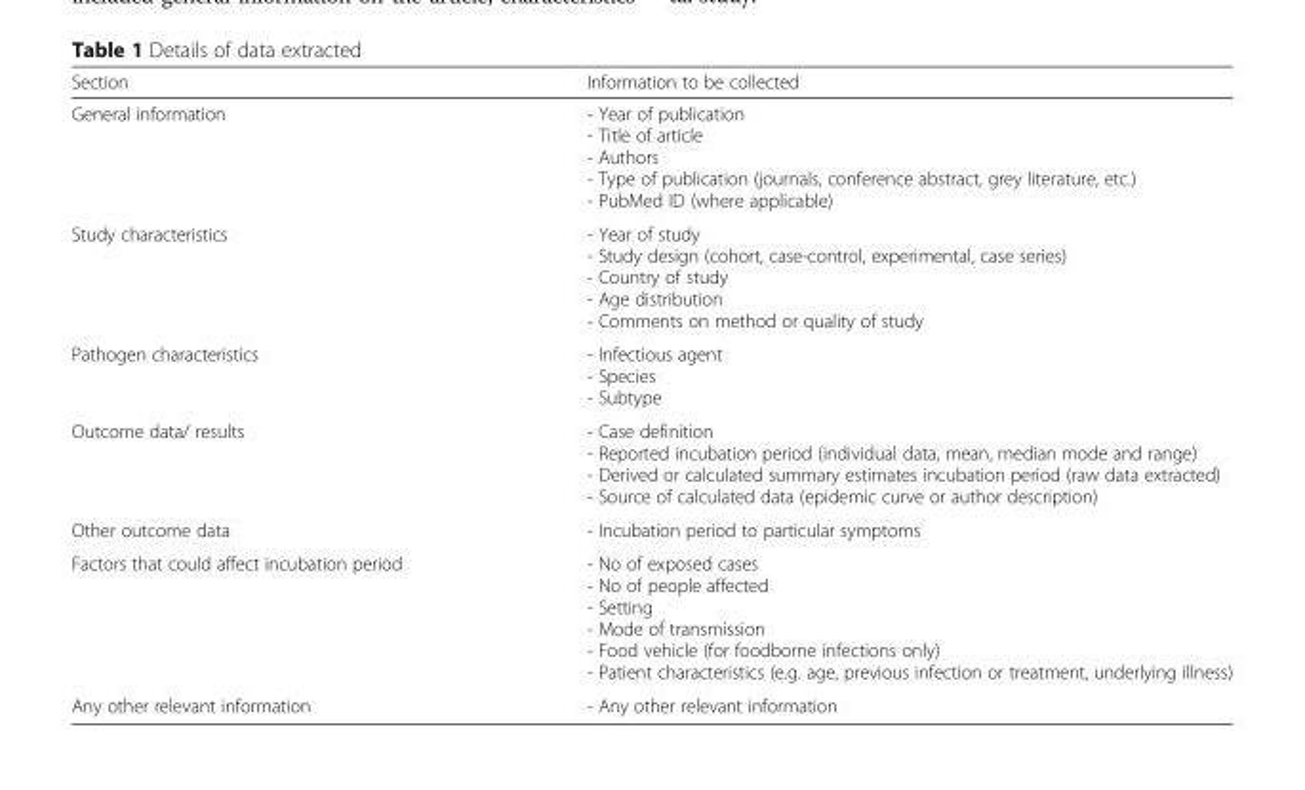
<table><thead><tr><td>Section</td><td>Information to be collected</td></tr></thead><tbody><tr><td>General information</td><td>- Year of publication - Title of article - Authors - Type of publication (journals, conference abstract, grey literature, etc.) - PubMed ID (where applicable)</td></tr><tr><td>Study characteristics</td><td>- Year of study - Study design (cohort, case-control, experimental, case series) - Country of study - Age distribution - Comments on method or quality of study</td></tr><tr><td>Pathogen characteristics</td><td>- Infectious agent - Species - Subtype</td></tr><tr><td>Outcome data/ results</td><td>- Case definition - Reported incubation period (individual data, mean, median mode and range) - Derived or calculated summary estimates incubation period (raw data extracted) - Source of calculated data (epidemic curve or author description)</td></tr><tr><td>Other outcome data</td><td>- Incubation period to particular symptoms</td></tr><tr><td>Factors that could affect incubation period</td><td>- No of exposed cases - No of people affected - Setting - Mode of transmission - Food vehicle (for foodborne infections only) - Patient characteristics (e.g. age, previous infection or treatment, underlying illness)</td></tr><tr><td>Any other relevant information</td><td>- Any other relevant information</td></tr></tbody></table>